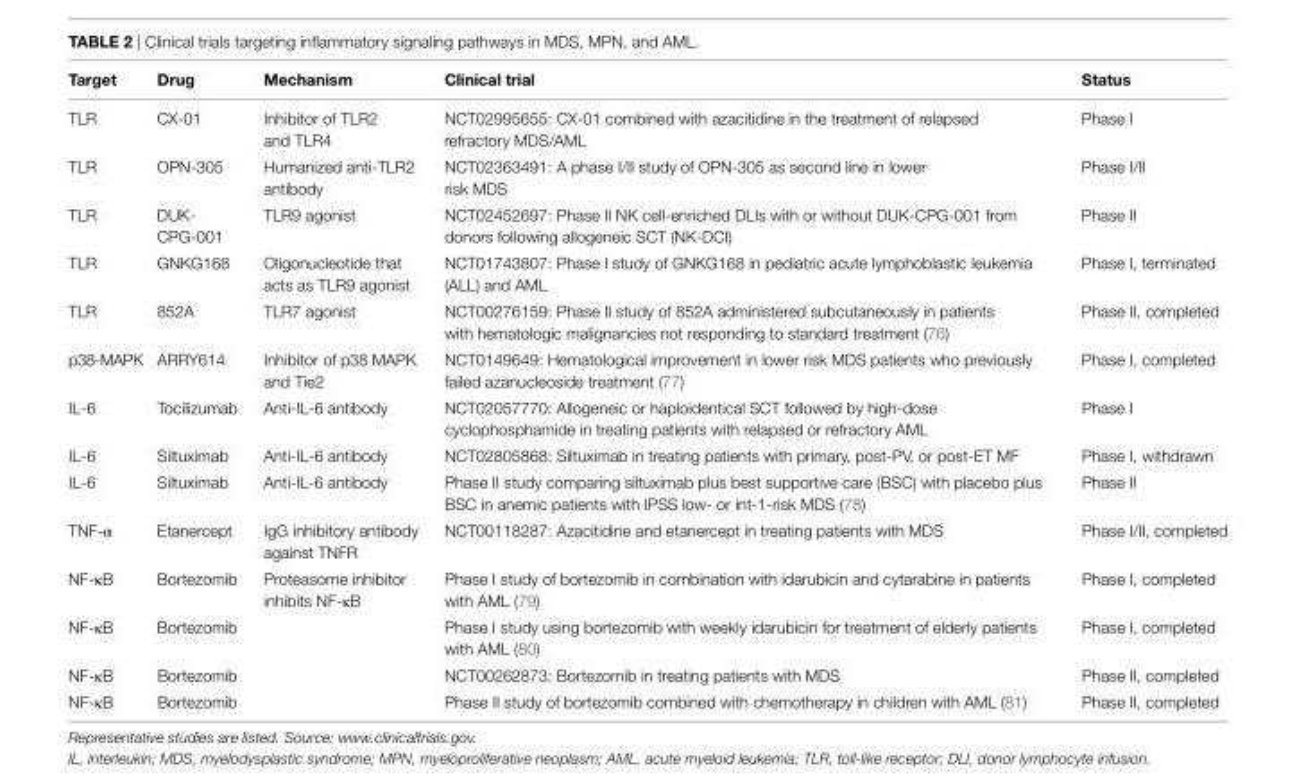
<table><thead><tr><td>Target</td><td>Drug</td><td>Mechanism</td><td>Clinical trial</td><td>Status</td></tr></thead><tbody><tr><td>TLR</td><td>CX-01</td><td>Inhibitor of TLR2 and TLR4</td><td>NCT02995655: CX-01 combined with azacitidine in the treatment of relapsed refractory MDS/AML</td><td>Phase I</td></tr><tr><td>TLR</td><td>OPN-305</td><td>Humanized anti-TLR2 antibody</td><td>NCT02363491: A phase I/II study of OPN-305 as second line in lower risk MDS</td><td>Phase I/II</td></tr><tr><td>TLR</td><td>DUK- CPG-001</td><td>TLR9 agonist</td><td>NCT02452697: Phase II NK cell-enriched DLIs with or without DUK-CPG-001 from donors following allogeneic SCT (NK-DCI)</td><td>Phase II</td></tr><tr><td>TLR</td><td>GNKG168</td><td>Oligonucleotide that acts as TLR9 agonist</td><td>NCT01743807: Phase I study of GNKG168 in pediatric acute lymphoblastic leukemia (ALL) and AML</td><td>Phase I, terminated</td></tr><tr><td>TLR</td><td>852A</td><td>TLR7 agonist</td><td>NCT00276159: Phase II study of 852A administered subcutaneously in patients with hematologic malignancies not responding to standard treatment (76)</td><td>Phase II, completed</td></tr><tr><td>p38-MAPK</td><td>ARRY614</td><td>Inhibitor of p38 MAPK and Tie2</td><td>NCT0149649: Hematological improvement in lower risk MDS patients who previously failed azanucleoside treatment (77)</td><td>Phase I, completed</td></tr><tr><td>IL-6</td><td>Tocilizumab</td><td>Anti-IL-6 antibody</td><td>NCT02057770: Allogeneic or haploidentical SCT followed by high-dose cyclophosphamide in treating patients with relapsed or refractory AML</td><td>Phase I</td></tr><tr><td>IL-6</td><td>Siltuximab</td><td>Anti-IL-6 antibody</td><td>NCT02805868: Siltuximab in treating patients with primary, post-PV, or post-ET MF</td><td>Phase I, withdrawn</td></tr><tr><td>IL-6</td><td>Siltuximab</td><td>Anti-IL-6 antibody</td><td>Phase II study comparing siltuximab plus best supportive care (BSC) with placebo plus BSC in anemic patients with IPSS low- or int-1-risk MDS (78)</td><td>Phase II</td></tr><tr><td>TNF-α</td><td>Etanercept</td><td>IgG inhibitory antibody against TNFR</td><td>NCT00118287: Azacitidine and etanercept in treating patients with MDS</td><td>Phase I/II, completed</td></tr><tr><td>NF-κB</td><td>Bortezomib</td><td>Proteasome inhibitor inhibits NF-κB</td><td>Phase I study of bortezomib in combination with idarubicin and cytarabine in patients with AML (79)</td><td>Phase I, completed</td></tr><tr><td>NF-κB</td><td>Bortezomib</td><td></td><td>Phase I study using bortezomib with weekly idarubicin for treatment of elderly patients with AML (80)</td><td>Phase I, completed</td></tr><tr><td>NF-κB</td><td>Bortezomib</td><td></td><td>NCT00262873: Bortezomib in treating patients with MDS</td><td>Phase II, completed</td></tr><tr><td>NF-κB</td><td>Bortezomib</td><td></td><td>Phase II study of bortezomib combined with chemotherapy in children with AML (81)</td><td>Phase II, completed</td></tr></tbody></table>